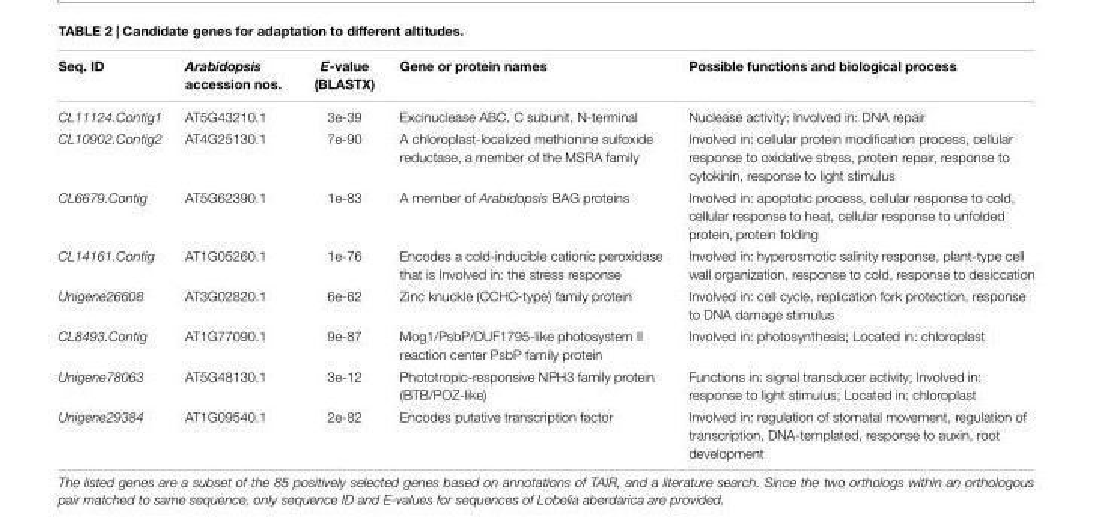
<table><thead><tr><td>Seq. ID</td><td>Arabidopsis accession nos.</td><td>E-value (BLASTX)</td><td>Gene or protein names</td><td>Possible functions and biological process</td></tr></thead><tbody><tr><td>CL11124.Contig1</td><td>AT5G43210.1</td><td>3e-39</td><td>Excinuclease ABC, C subunit, N-terminal</td><td>Nuclease activity; Involved in: DNA repair</td></tr><tr><td>CL10902.Contig2</td><td>AT4G25130.1</td><td>7e-90</td><td>A chloroplast-localized methionine sulfoxide reductase, a member of the MSRA family</td><td>Involved in: cellular protein modification process, cellular response to oxidative stress, protein repair, response to cytokinin, response to light stimulus</td></tr><tr><td>CL6679.Contig</td><td>AT5G62390.1</td><td>1e-83</td><td>A member of Arabidopsis BAG proteins</td><td>Involved in: apoptotic process, cellular response to cold, cellular response to heat, cellular response to unfolded protein, protein folding</td></tr><tr><td>CL14161.Contig</td><td>AT1G05260.1</td><td>1e-76</td><td>Encodes a cold-inducible cationic peroxidase that is Involved in: the stress response</td><td>Involved in: hyperosmotic salinity response, plant-type cell wall organization, response to cold, response to desiccation</td></tr><tr><td>Unigene26608</td><td>AT3G02820.1</td><td>6e-62</td><td>Zinc knuckle (CCHC-type) family protein</td><td>Involved in: cell cycle, replication fork protection, response to DNA damage stimulus</td></tr><tr><td>CL8493.Contig</td><td>AT1G77090.1</td><td>9e-87</td><td>Mog1/PsbP/DUF1795-like photosystem II reaction center PsbP family protein</td><td>Involved in: photosynthesis; Located in: chloroplast</td></tr><tr><td>Unigene78063</td><td>AT5G48130.1</td><td>3e-12</td><td>Phototropic-responsive NPH3 family protein (BTB/POZ-like)</td><td>Functions in: signal transducer activity; Involved in: response to light stimulus; Located in: chloroplast</td></tr><tr><td>Unigene29384</td><td>AT1G09540.1</td><td>2e-82</td><td>Encodes putative transcription factor</td><td>Involved in: regulation of stomatal movement, regulation of transcription, DNA-templated, response to auxin, root development</td></tr></tbody></table>